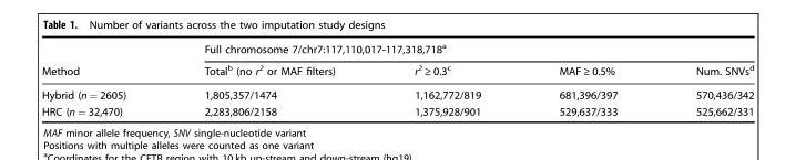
<table><thead><tr><td rowspan="2">Method</td><td colspan="4">Full chromosome 7/chr7:117,110,017-117,318,718<sup>a</sup></td></tr><tr><td>Total<sup>b</sup> (no r<sup>2</sup> or MAF filters)</td><td>r<sup>2</sup> ≥ 0.3<sup>c</sup></td><td>MAF ≥ 0.5%</td><td>Num. SNVs<sup>d</sup></td></tr></thead><tbody><tr><td>Hybrid (n = 2605)</td><td>1,805,357/1474</td><td>1,162,772/819</td><td>681,396/397</td><td>570,436/342</td></tr><tr><td>HRC (n = 32,470)</td><td>2,283,806/2158</td><td>1,375,928/901</td><td>529,637/333</td><td>525,662/331</td></tr></tbody></table>